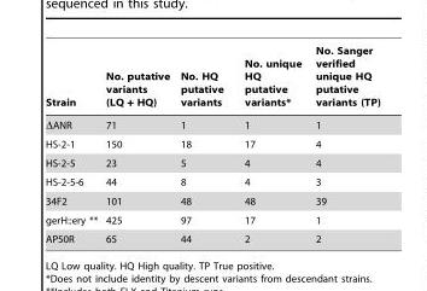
<table><thead><tr><td>Strain</td><td>No. putative variants (LQ + HQ)</td><td>No. HQ putative variants</td><td>No. unique HQ putative variants*</td><td>No. Sanger verified unique HQ putative variants (TP)</td></tr></thead><tbody><tr><td>ΔANR</td><td>71</td><td>1</td><td>1</td><td>1</td></tr><tr><td>HS-2-1</td><td>150</td><td>18</td><td>17</td><td>4</td></tr><tr><td>HS-2-5</td><td>23</td><td>5</td><td>4</td><td>4</td></tr><tr><td>HS-2-5-6</td><td>44</td><td>8</td><td>4</td><td>3</td></tr><tr><td>34F2</td><td>101</td><td>48</td><td>48</td><td>39</td></tr><tr><td>gerH::ery **</td><td>425</td><td>97</td><td>17</td><td>1</td></tr><tr><td>AP50R</td><td>65</td><td>44</td><td>2</td><td>2</td></tr></tbody></table>